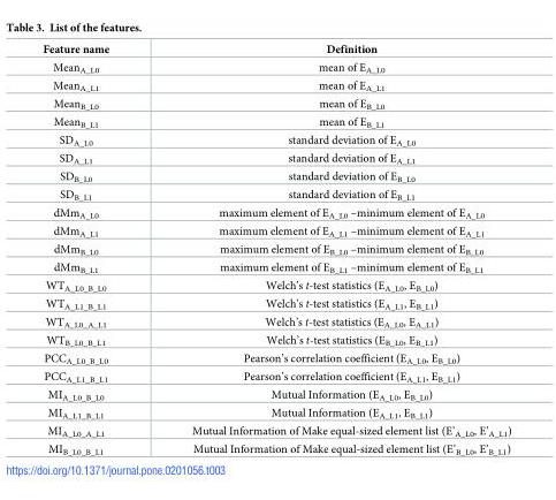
<table><thead><tr><td>Feature name</td><td>Definition</td></tr></thead><tbody><tr><td>Mean<sub>A_L0</sub></td><td>mean of E<sub>A_L0</sub></td></tr><tr><td>Mean<sub>A_L1</sub></td><td>mean of E<sub>A_L1</sub></td></tr><tr><td>Mean<sub>B_L0</sub></td><td>mean of E<sub>B_L0</sub></td></tr><tr><td>Mean<sub>B_L1</sub></td><td>mean of E<sub>B_L1</sub></td></tr><tr><td>SD<sub>A_L0</sub></td><td>standard deviation of E<sub>A_L0</sub></td></tr><tr><td>SD<sub>A_L1</sub></td><td>standard deviation of E<sub>A_L1</sub></td></tr><tr><td>SD<sub>B_L0</sub></td><td>standard deviation of E<sub>B_L0</sub></td></tr><tr><td>SD<sub>B_L1</sub></td><td>standard deviation of E<sub>B_L1</sub></td></tr><tr><td>dMm<sub>A_L0</sub></td><td>maximum element of E<sub>A_L0</sub> –minimum element of E<sub>A_L0</sub></td></tr><tr><td>dMm<sub>A_L1</sub></td><td>maximum element of E<sub>A_L1</sub> –minimum element of E<sub>A_L1</sub></td></tr><tr><td>dMm<sub>B_L0</sub></td><td>maximum element of E<sub>B_L0</sub> –minimum element of E<sub>B_L0</sub></td></tr><tr><td>dMm<sub>B_L1</sub></td><td>maximum element of E<sub>B_L1</sub> –minimum element of E<sub>B_L1</sub></td></tr><tr><td>WT<sub>A_L0_B_L0</sub></td><td>Welch’s t-test statistics (E<sub>A_L0</sub>, E<sub>B_L0</sub>)</td></tr><tr><td>WT<sub>A_L1_B_L1</sub></td><td>Welch’s t-test statistics (E<sub>A_L1</sub>, E<sub>B_L1</sub>)</td></tr><tr><td>WT<sub>A_L0_A_L1</sub></td><td>Welch’s t-test statistics (E<sub>A_L0</sub>, E<sub>A_L1</sub>)</td></tr><tr><td>WT<sub>B_L0_B_L1</sub></td><td>Welch’s t-test statistics (E<sub>B_L0</sub>, E<sub>B_L1</sub>)</td></tr><tr><td>PCC<sub>A_L0_B_L0</sub></td><td>Pearson’s correlation coefficient (E<sub>A_L0</sub>, E<sub>B_L0</sub>)</td></tr><tr><td>PCC<sub>A_L1_B_L1</sub></td><td>Pearson’s correlation coefficient (E<sub>A_L1</sub>, E<sub>B_L1</sub>)</td></tr><tr><td>MI<sub>A_L0_B_L0</sub></td><td>Mutual Information (E<sub>A_L0</sub>, E<sub>B_L0</sub>)</td></tr><tr><td>MI<sub>A_L1_B_L1</sub></td><td>Mutual Information (E<sub>A_L1</sub>, E<sub>B_L1</sub>)</td></tr><tr><td>MI<sub>A_L0_A_L1</sub></td><td>Mutual Information of Make equal-sized element list (E’<sub>A_L0</sub>, E’<sub>A_L1</sub>)</td></tr><tr><td>MI<sub>B_L0_B_L1</sub></td><td>Mutual Information of Make equal-sized element list (E’<sub>B_L0</sub>, E’<sub>B_L1</sub>)</td></tr></tbody></table>